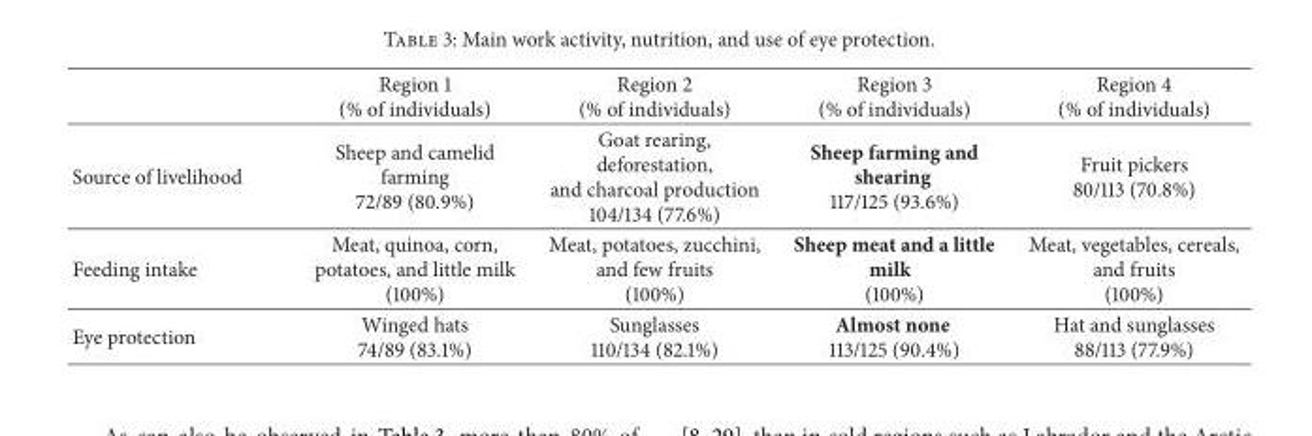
<table><thead><tr><td></td><td>Region 1 (% of individuals)</td><td>Region 2 (% of individuals)</td><td>Region 3 (% of individuals)</td><td>Region 4 (% of individuals)</td></tr></thead><tbody><tr><td>Source of livelihood</td><td>Sheep and camelid farming 72/89 (80.9%)</td><td>Goat rearing, deforestation, and charcoal production 104/134 (77.6%)</td><td>Sheep farming and shearing 117/125 (93.6%)</td><td>Fruit pickers 80/113 (70.8%)</td></tr><tr><td>Feeding intake</td><td>Meat, quinoa, corn, potatoes, and little milk (100%)</td><td>Meat, potatoes, zucchini, and few fruits (100%)</td><td>Sheep meat and a little milk (100%)</td><td>Meat, vegetables, cereals, and fruits (100%)</td></tr><tr><td>Eye protection</td><td>Winged hats 74/89 (83.1%)</td><td>Sunglasses 110/134 (82.1%)</td><td>Almost none 113/125 (90.4%)</td><td>Hat and sunglasses 88/113 (77.9%)</td></tr></tbody></table>